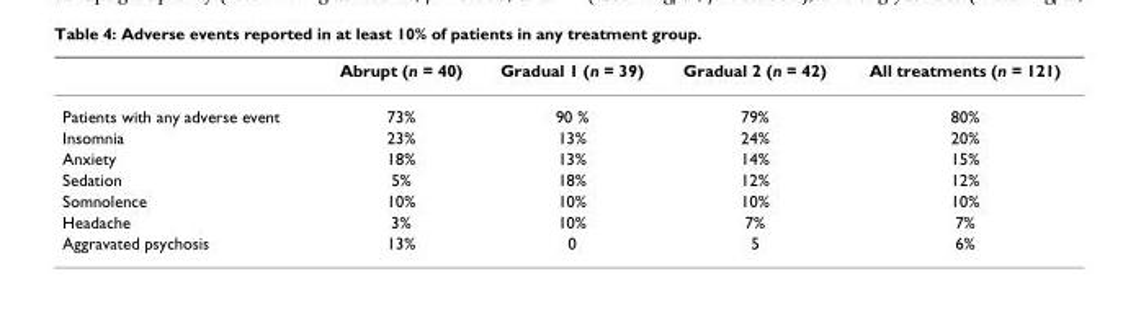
<table><thead><tr><td></td><td>Abrupt (n = 40)</td><td>Gradual 1 (n = 39)</td><td>Gradual 2 (n = 42)</td><td>All treatments (n = 121)</td></tr></thead><tbody><tr><td>Patients with any adverse event</td><td>73%</td><td>90 %</td><td>79%</td><td>80%</td></tr><tr><td>Insomnia</td><td>23%</td><td>13%</td><td>24%</td><td>20%</td></tr><tr><td>Anxiety</td><td>18%</td><td>13%</td><td>14%</td><td>15%</td></tr><tr><td>Sedation</td><td>5%</td><td>18%</td><td>12%</td><td>12%</td></tr><tr><td>Somnolence</td><td>10%</td><td>10%</td><td>10%</td><td>10%</td></tr><tr><td>Headache</td><td>3%</td><td>10%</td><td>7%</td><td>7%</td></tr><tr><td>Aggravated psychosis</td><td>13%</td><td>0</td><td>5</td><td>6%</td></tr></tbody></table>